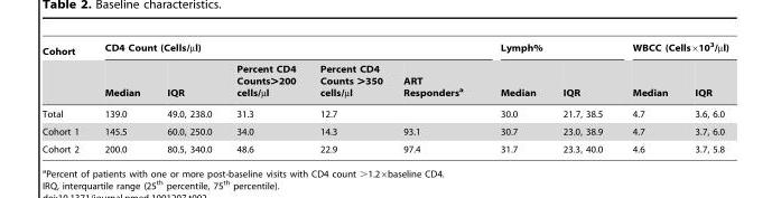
<table><thead><tr><td rowspan="2">Cohort</td><td colspan="5">CD4 Count (Cells/µl)</td><td colspan="2">Lymph%</td><td colspan="2">WBCC (Cells×10<sup>3</sup>/µl)</td></tr><tr><td>Median</td><td>IQR</td><td>Percent CD4 Counts&gt;200 cells/µl</td><td>Percent CD4 Counts &gt;350 cells/µl</td><td>ART Responders<sup>a</sup></td><td>Median</td><td>IQR</td><td>Median</td><td>IQR</td></tr></thead><tbody><tr><td>Total</td><td>139.0</td><td>49.0, 238.0</td><td>31.3</td><td>12.7</td><td></td><td>30.0</td><td>21.7, 38.5</td><td>4.7</td><td>3.6, 6.0</td></tr><tr><td>Cohort 1</td><td>145.5</td><td>60.0, 250.0</td><td>34.0</td><td>14.3</td><td>93.1</td><td>30.7</td><td>23.0, 38.9</td><td>4.7</td><td>3.7, 6.0</td></tr><tr><td>Cohort 2</td><td>200.0</td><td>80.5, 340.0</td><td>48.6</td><td>22.9</td><td>97.4</td><td>31.7</td><td>23.3, 40.0</td><td>4.6</td><td>3.7, 5.8</td></tr></tbody></table>